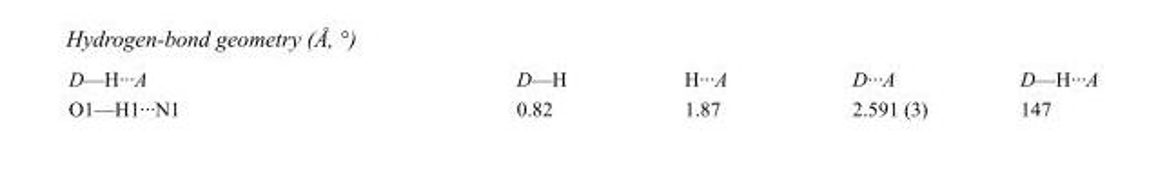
<table><tbody><tr><td>D—H···A</td><td>D—H</td><td>H···A</td><td>D···A</td><td>D—H···A</td></tr><tr><td>O1—H1···N1</td><td>0.82</td><td>1.87</td><td>2.591 (3)</td><td>147</td></tr></tbody></table>